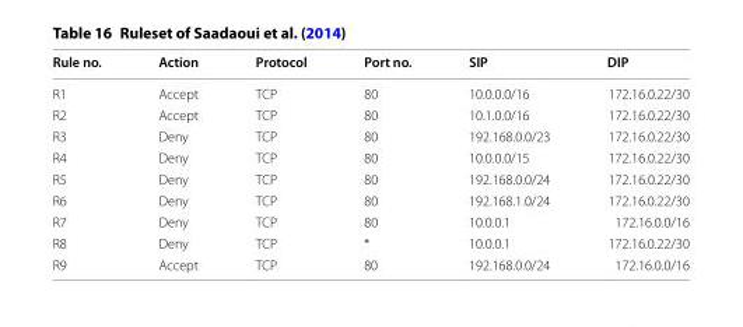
<table><thead><tr><td>Rule no.</td><td>Action</td><td>Protocol</td><td>Port no.</td><td>SIP</td><td>DIP</td></tr></thead><tbody><tr><td>R1</td><td>Accept</td><td>TCP</td><td>80</td><td>10.0.0.0/16</td><td>172.16.0.22/30</td></tr><tr><td>R2</td><td>Accept</td><td>TCP</td><td>80</td><td>10.1.0.0/16</td><td>172.16.0.22/30</td></tr><tr><td>R3</td><td>Deny</td><td>TCP</td><td>80</td><td>192.168.0.0/23</td><td>172.16.0.22/30</td></tr><tr><td>R4</td><td>Deny</td><td>TCP</td><td>80</td><td>10.0.0.0/15</td><td>172.16.0.22/30</td></tr><tr><td>R5</td><td>Deny</td><td>TCP</td><td>80</td><td>192.168.0.0/24</td><td>172.16.0.22/30</td></tr><tr><td>R6</td><td>Deny</td><td>TCP</td><td>80</td><td>192.168.1.0/24</td><td>172.16.0.22/30</td></tr><tr><td>R7</td><td>Deny</td><td>TCP</td><td>80</td><td>10.0.0.1</td><td>172.16.0.0/16</td></tr><tr><td>R8</td><td>Deny</td><td>TCP</td><td>*</td><td>10.0.0.1</td><td>172.16.0.22/30</td></tr><tr><td>R9</td><td>Accept</td><td>TCP</td><td>80</td><td>192.168.0.0/24</td><td>172.16.0.0/16</td></tr></tbody></table>